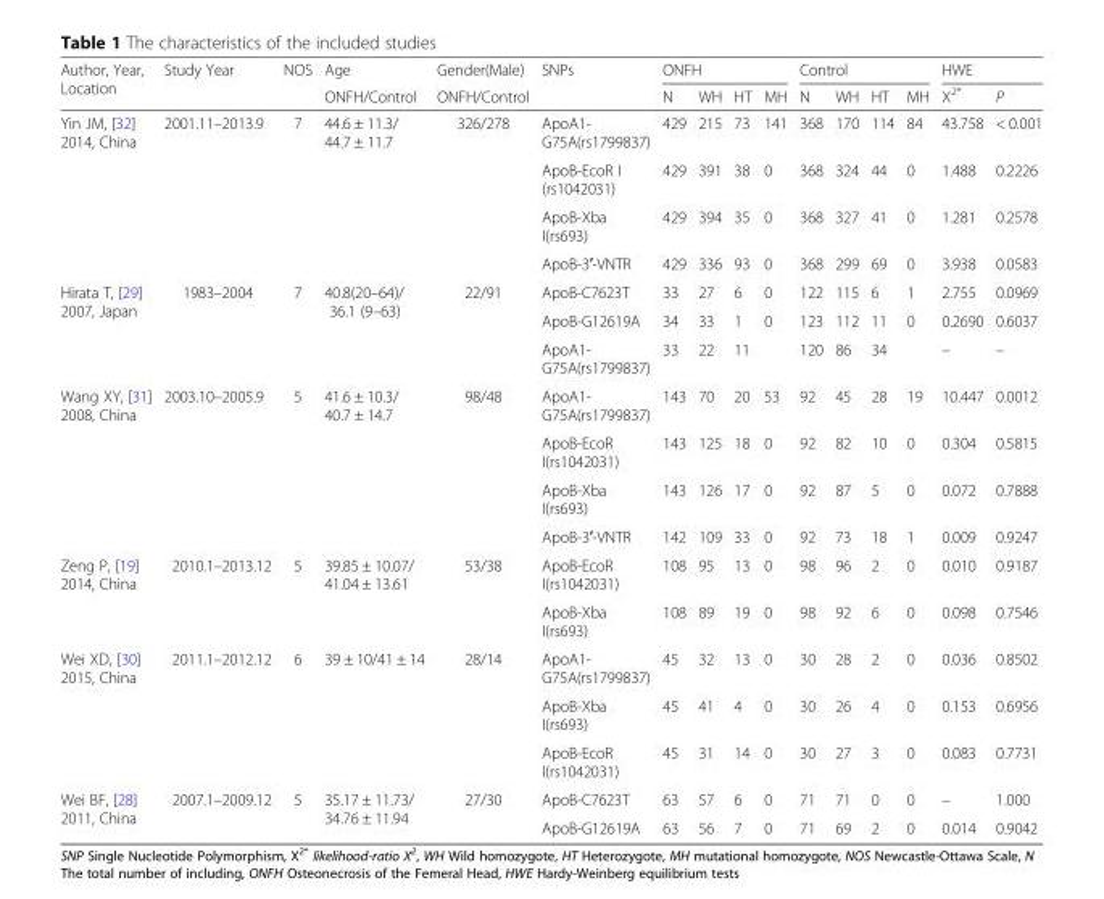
<table><thead><tr><td rowspan="2">Author, Year, Location</td><td rowspan="2">Study Year</td><td rowspan="2">NOS</td><td rowspan="2">Age ONFH/Control</td><td rowspan="2">Gender(Male) ONFH/Control</td><td rowspan="2">SNPs</td><td colspan="4">ONFH</td><td colspan="4">Control</td><td colspan="2">HWE</td></tr><tr><td>N</td><td>WH</td><td>HT</td><td>MH</td><td>N</td><td>WH</td><td>HT</td><td>MH</td><td>Χ<sup>2*</sup></td><td>P</td></tr></thead><tbody><tr><td rowspan="4">Yin JM, [32] 2014, China</td><td rowspan="4">2001.11–2013.9</td><td rowspan="4">7</td><td rowspan="4">44.6 ± 11.3/ 44.7 ± 11.7</td><td rowspan="4">326/278</td><td>ApoA1- G75A(rs1799837)</td><td>429</td><td>215</td><td>73</td><td>141</td><td>368</td><td>170</td><td>114</td><td>84</td><td>43.758</td><td>&lt; 0.001</td></tr><tr><td>ApoB-EcoR I (rs1042031)</td><td>429</td><td>391</td><td>38</td><td>0</td><td>368</td><td>324</td><td>44</td><td>0</td><td>1.488</td><td>0.2226</td></tr><tr><td>ApoB-Xba I(rs693)</td><td>429</td><td>394</td><td>35</td><td>0</td><td>368</td><td>327</td><td>41</td><td>0</td><td>1.281</td><td>0.2578</td></tr><tr><td>ApoB-3′-VNTR</td><td>429</td><td>336</td><td>93</td><td>0</td><td>368</td><td>299</td><td>69</td><td>0</td><td>3.938</td><td>0.0583</td></tr><tr><td rowspan="3">Hirata T, [29] 2007, Japan</td><td rowspan="3">1983–2004</td><td rowspan="3">7</td><td rowspan="3">40.8(20–64)/ 36.1 (9–63)</td><td rowspan="3">22/91</td><td>ApoB-C7623T</td><td>33</td><td>27</td><td>6</td><td>0</td><td>122</td><td>115</td><td>6</td><td>1</td><td>2.755</td><td>0.0969</td></tr><tr><td>ApoB-G12619A</td><td>34</td><td>33</td><td>1</td><td>0</td><td>123</td><td>112</td><td>11</td><td>0</td><td>0.2690</td><td>0.6037</td></tr><tr><td>ApoA1- G75A(rs1799837)</td><td>33</td><td>22</td><td colspan="2">11</td><td>120</td><td>86</td><td colspan="2">34</td><td>–</td><td>–</td></tr><tr><td rowspan="4">Wang XY, [31] 2008, China</td><td rowspan="4">2003.10–2005.9</td><td rowspan="4">5</td><td rowspan="4">41.6 ± 10.3/ 40.7 ± 14.7</td><td rowspan="4">98/48</td><td>ApoA1- G75A(rs1799837)</td><td>143</td><td>70</td><td>20</td><td>53</td><td>92</td><td>45</td><td>28</td><td>19</td><td>10.447</td><td>0.0012</td></tr><tr><td>ApoB-EcoR I(rs1042031)</td><td>143</td><td>125</td><td>18</td><td>0</td><td>92</td><td>82</td><td>10</td><td>0</td><td>0.304</td><td>0.5815</td></tr><tr><td>ApoB-Xba I(rs693)</td><td>143</td><td>126</td><td>17</td><td>0</td><td>92</td><td>87</td><td>5</td><td>0</td><td>0.072</td><td>0.7888</td></tr><tr><td>ApoB-3′-VNTR</td><td>142</td><td>109</td><td>33</td><td>0</td><td>92</td><td>73</td><td>18</td><td>1</td><td>0.009</td><td>0.9247</td></tr><tr><td rowspan="2">Zeng P, [19] 2014, China</td><td rowspan="2">2010.1–2013.12</td><td rowspan="2">5</td><td rowspan="2">39.85 ± 10.07/ 41.04 ± 13.61</td><td rowspan="2">53/38</td><td>ApoB-EcoR I(rs1042031)</td><td>108</td><td>95</td><td>13</td><td>0</td><td>98</td><td>96</td><td>2</td><td>0</td><td>0.010</td><td>0.9187</td></tr><tr><td>ApoB-Xba I(rs693)</td><td>108</td><td>89</td><td>19</td><td>0</td><td>98</td><td>92</td><td>6</td><td>0</td><td>0.098</td><td>0.7546</td></tr><tr><td rowspan="3">Wei XD, [30] 2015, China</td><td rowspan="3">2011.1–2012.12</td><td rowspan="3">6</td><td rowspan="3">39 ± 10/41 ± 14</td><td rowspan="3">28/14</td><td>ApoA1- G75A(rs1799837)</td><td>45</td><td>32</td><td>13</td><td>0</td><td>30</td><td>28</td><td>2</td><td>0</td><td>0.036</td><td>0.8502</td></tr><tr><td>ApoB-Xba I(rs693)</td><td>45</td><td>41</td><td>4</td><td>0</td><td>30</td><td>26</td><td>4</td><td>0</td><td>0.153</td><td>0.6956</td></tr><tr><td>ApoB-EcoR I(rs1042031)</td><td>45</td><td>31</td><td>14</td><td>0</td><td>30</td><td>27</td><td>3</td><td>0</td><td>0.083</td><td>0.7731</td></tr><tr><td rowspan="2">Wei BF, [28] 2011, China</td><td rowspan="2">2007.1–2009.12</td><td rowspan="2">5</td><td rowspan="2">35.17 ± 11.73/ 34.76 ± 11.94</td><td rowspan="2">27/30</td><td>ApoB-C7623T</td><td>63</td><td>57</td><td>6</td><td>0</td><td>71</td><td>71</td><td>0</td><td>0</td><td>–</td><td>1.000</td></tr><tr><td>ApoB-G12619A</td><td>63</td><td>56</td><td>7</td><td>0</td><td>71</td><td>69</td><td>2</td><td>0</td><td>0.014</td><td>0.9042</td></tr></tbody></table>